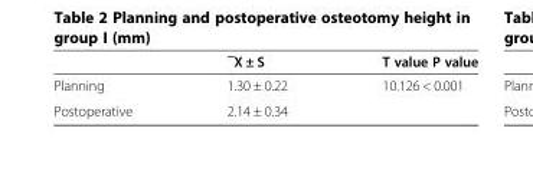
<table><thead><tr><td></td><td>‾X ± S</td><td>T value P value</td></tr></thead><tbody><tr><td>Planning</td><td>1.30 ± 0.22</td><td>10.126 &lt; 0.001</td></tr><tr><td>Postoperative</td><td>2.14 ± 0.34</td><td></td></tr></tbody></table>